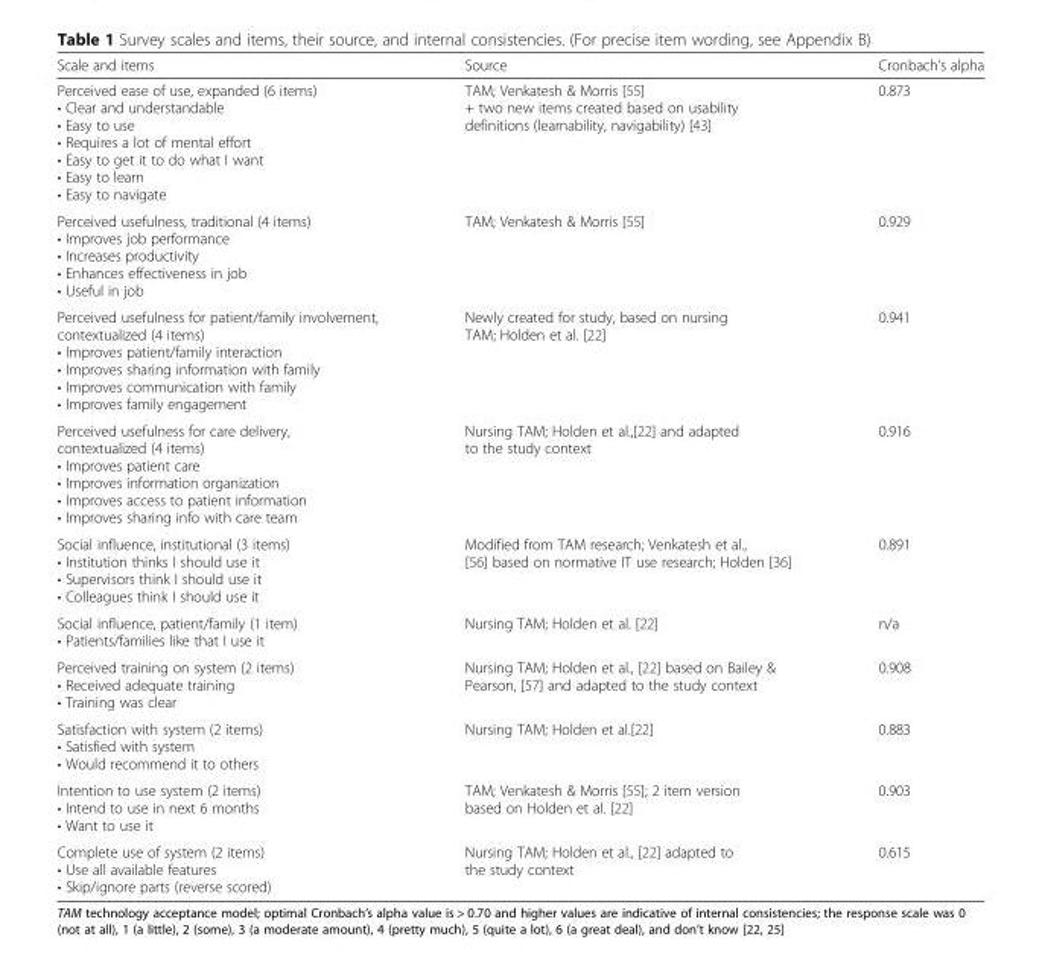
<table><thead><tr><td>Scale and items</td><td>Source</td><td>Cronbach’s alpha</td></tr></thead><tbody><tr><td>Perceived ease of use, expanded (6 items) • Clear and understandable • Easy to use • Requires a lot of mental effort • Easy to get it to do what I want • Easy to learn • Easy to navigate</td><td>TAM; Venkatesh &amp; Morris [55] + two new items created based on usability definitions (learnability, navigability) [43]</td><td>0.873</td></tr><tr><td>Perceived usefulness, traditional (4 items) • Improves job performance • Increases productivity • Enhances effectiveness in job • Useful in job</td><td>TAM; Venkatesh &amp; Morris [55]</td><td>0.929</td></tr><tr><td>Perceived usefulness for patient/family involvement, contextualized (4 items) • Improves patient/family interaction • Improves sharing information with family • Improves communication with family • Improves family engagement</td><td>Newly created for study, based on nursing TAM; Holden et al. [22]</td><td>0.941</td></tr><tr><td>Perceived usefulness for care delivery, contextualized (4 items) • Improves patient care • Improves information organization • Improves access to patient information • Improves sharing info with care team</td><td>Nursing TAM; Holden et al.,[22] and adapted to the study context</td><td>0.916</td></tr><tr><td>Social influence, institutional (3 items) • Institution thinks I should use it • Supervisors think I should use it • Colleagues think I should use it</td><td>Modified from TAM research; Venkatesh et al., [56] based on normative IT use research; Holden [36]</td><td>0.891</td></tr><tr><td>Social influence, patient/family (1 item) • Patients/families like that I use it</td><td>Nursing TAM; Holden et al. [22]</td><td>n/a</td></tr><tr><td>Perceived training on system (2 items) • Received adequate training • Training was clear</td><td>Nursing TAM; Holden et al., [22] based on Bailey &amp; Pearson, [57] and adapted to the study context</td><td>0.908</td></tr><tr><td>Satisfaction with system (2 items) • Satisfied with system • Would recommend it to others</td><td>Nursing TAM; Holden et al.[22]</td><td>0.883</td></tr><tr><td>Intention to use system (2 items) • Intend to use in next 6 months • Want to use it</td><td>TAM; Venkatesh &amp; Morris [55]; 2 item version based on Holden et al. [22]</td><td>0.903</td></tr><tr><td>Complete use of system (2 items) • Use all available features • Skip/ignore parts (reverse scored)</td><td>Nursing TAM; Holden et al., [22] adapted to the study context</td><td>0.615</td></tr></tbody></table>